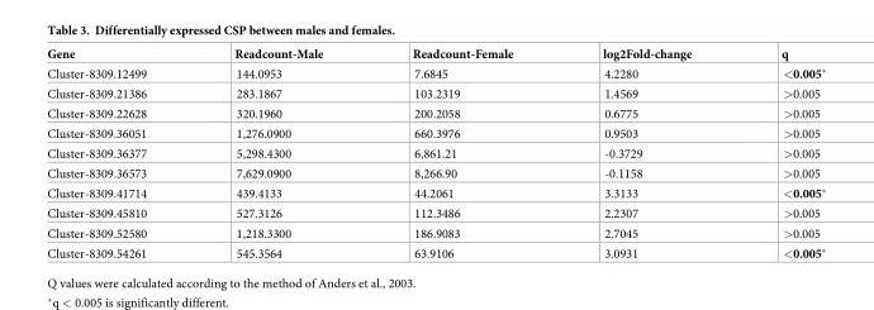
<table><thead><tr><td>Gene</td><td>Readcount-Male</td><td>Readcount-Female</td><td>log2Fold-change</td><td>q</td></tr></thead><tbody><tr><td>Cluster-8309.12499</td><td>144.0953</td><td>7.6845</td><td>4.2280</td><td>&lt;0.005*</td></tr><tr><td>Cluster-8309.21386</td><td>283.1867</td><td>103.2319</td><td>1.4569</td><td>&gt;0.005</td></tr><tr><td>Cluster-8309.22628</td><td>320.1960</td><td>200.2058</td><td>0.6775</td><td>&gt;0.005</td></tr><tr><td>Cluster-8309.36051</td><td>1,276.0900</td><td>660.3976</td><td>0.9503</td><td>&gt;0.005</td></tr><tr><td>Cluster-8309.36377</td><td>5,298.4300</td><td>6,861.21</td><td>-0.3729</td><td>&gt;0.005</td></tr><tr><td>Cluster-8309.36573</td><td>7,629.0900</td><td>8,266.90</td><td>-0.1158</td><td>&gt;0.005</td></tr><tr><td>Cluster-8309.41714</td><td>439.4133</td><td>44.2061</td><td>3.3133</td><td>&lt;0.005*</td></tr><tr><td>Cluster-8309.45810</td><td>527.3126</td><td>112.3486</td><td>2.2307</td><td>&gt;0.005</td></tr><tr><td>Cluster-8309.52580</td><td>1,218.3300</td><td>186.9083</td><td>2.7045</td><td>&gt;0.005</td></tr><tr><td>Cluster-8309.54261</td><td>545.3564</td><td>63.9106</td><td>3.0931</td><td>&lt;0.005*</td></tr></tbody></table>